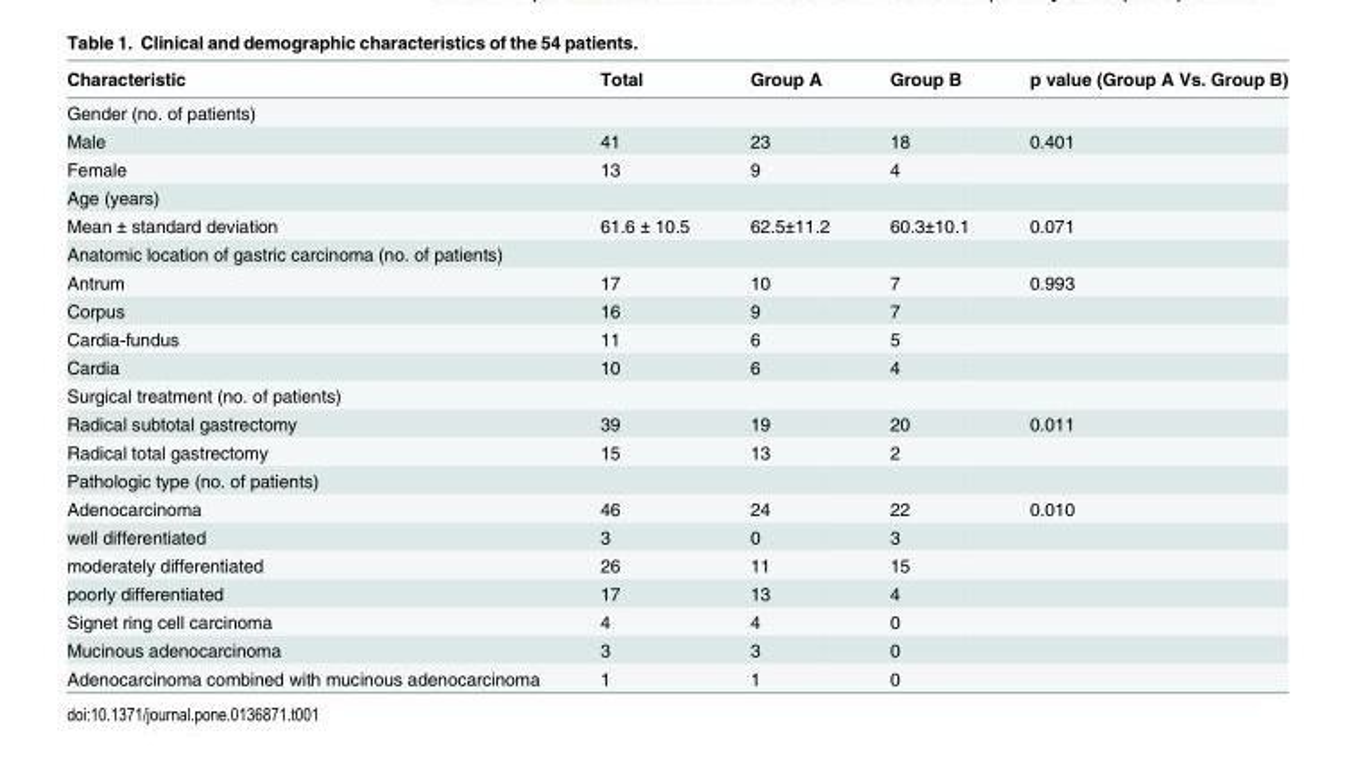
<table><thead><tr><td>Characteristic</td><td>Total</td><td>Group A</td><td>Group B</td><td>p value (Group A Vs. Group B)</td></tr></thead><tbody><tr><td colspan="5">Gender (no. of patients)</td></tr><tr><td>Male</td><td>41</td><td>23</td><td>18</td><td>0.401</td></tr><tr><td>Female</td><td>13</td><td>9</td><td>4</td><td></td></tr><tr><td colspan="5">Age (years)</td></tr><tr><td>Mean ± standard deviation</td><td>61.6 ± 10.5</td><td>62.5±11.2</td><td>60.3±10.1</td><td>0.071</td></tr><tr><td colspan="5">Anatomic location of gastric carcinoma (no. of patients)</td></tr><tr><td>Antrum</td><td>17</td><td>10</td><td>7</td><td>0.993</td></tr><tr><td>Corpus</td><td>16</td><td>9</td><td>7</td><td></td></tr><tr><td>Cardia-fundus</td><td>11</td><td>6</td><td>5</td><td></td></tr><tr><td>Cardia</td><td>10</td><td>6</td><td>4</td><td></td></tr><tr><td colspan="5">Surgical treatment (no. of patients)</td></tr><tr><td>Radical subtotal gastrectomy</td><td>39</td><td>19</td><td>20</td><td>0.011</td></tr><tr><td>Radical total gastrectomy</td><td>15</td><td>13</td><td>2</td><td></td></tr><tr><td colspan="5">Pathologic type (no. of patients)</td></tr><tr><td>Adenocarcinoma</td><td>46</td><td>24</td><td>22</td><td>0.010</td></tr><tr><td>well differentiated</td><td>3</td><td>0</td><td>3</td><td></td></tr><tr><td>moderately differentiated</td><td>26</td><td>11</td><td>15</td><td></td></tr><tr><td>poorly differentiated</td><td>17</td><td>13</td><td>4</td><td></td></tr><tr><td>Signet ring cell carcinoma</td><td>4</td><td>4</td><td>0</td><td></td></tr><tr><td>Mucinous adenocarcinoma</td><td>3</td><td>3</td><td>0</td><td></td></tr><tr><td>Adenocarcinoma combined with mucinous adenocarcinoma</td><td>1</td><td>1</td><td>0</td><td></td></tr></tbody></table>